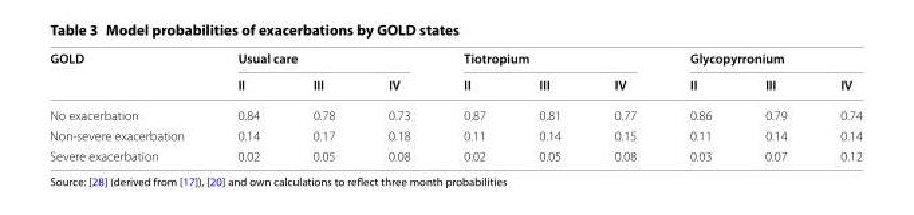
<table><thead><tr><td rowspan="2">GOLD</td><td colspan="3">Usual care</td><td colspan="3">Tiotropium</td><td colspan="3">Glycopyrronium</td></tr><tr><td>II</td><td>III</td><td>IV</td><td>II</td><td>III</td><td>IV</td><td>II</td><td>III</td><td>IV</td></tr></thead><tbody><tr><td>No exacerbation</td><td>0.84</td><td>0.78</td><td>0.73</td><td>0.87</td><td>0.81</td><td>0.77</td><td>0.86</td><td>0.79</td><td>0.74</td></tr><tr><td>Non-severe exacerbation</td><td>0.14</td><td>0.17</td><td>0.18</td><td>0.11</td><td>0.14</td><td>0.15</td><td>0.11</td><td>0.14</td><td>0.14</td></tr><tr><td>Severe exacerbation</td><td>0.02</td><td>0.05</td><td>0.08</td><td>0.02</td><td>0.05</td><td>0.08</td><td>0.03</td><td>0.07</td><td>0.12</td></tr></tbody></table>